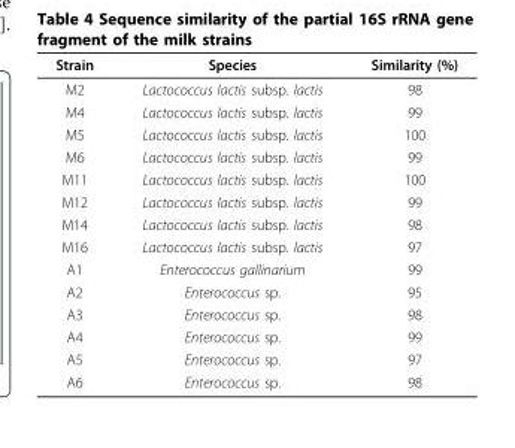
<table><thead><tr><td>Strain</td><td>Species</td><td>Similarity (%)</td></tr></thead><tbody><tr><td>M2</td><td>Lactococcus lactis subsp. lactis</td><td>98</td></tr><tr><td>M4</td><td>Lactococcus lactis subsp. lactis</td><td>99</td></tr><tr><td>M5</td><td>Lactococcus lactis subsp. lactis</td><td>100</td></tr><tr><td>M6</td><td>Lactococcus lactis subsp. lactis</td><td>99</td></tr><tr><td>M11</td><td>Lactococcus lactis subsp. lactis</td><td>100</td></tr><tr><td>M12</td><td>Lactococcus lactis subsp. lactis</td><td>99</td></tr><tr><td>M14</td><td>Lactococcus lactis subsp. lactis</td><td>98</td></tr><tr><td>M16</td><td>Lactococcus lactis subsp. lactis</td><td>97</td></tr><tr><td>A1</td><td>Enterococcus gallinarium</td><td>99</td></tr><tr><td>A2</td><td>Enterococcus sp.</td><td>95</td></tr><tr><td>A3</td><td>Enterococcus sp.</td><td>98</td></tr><tr><td>A4</td><td>Enterococcus sp.</td><td>99</td></tr><tr><td>A5</td><td>Enterococcus sp.</td><td>97</td></tr><tr><td>A6</td><td>Enterococcus sp.</td><td>98</td></tr></tbody></table>